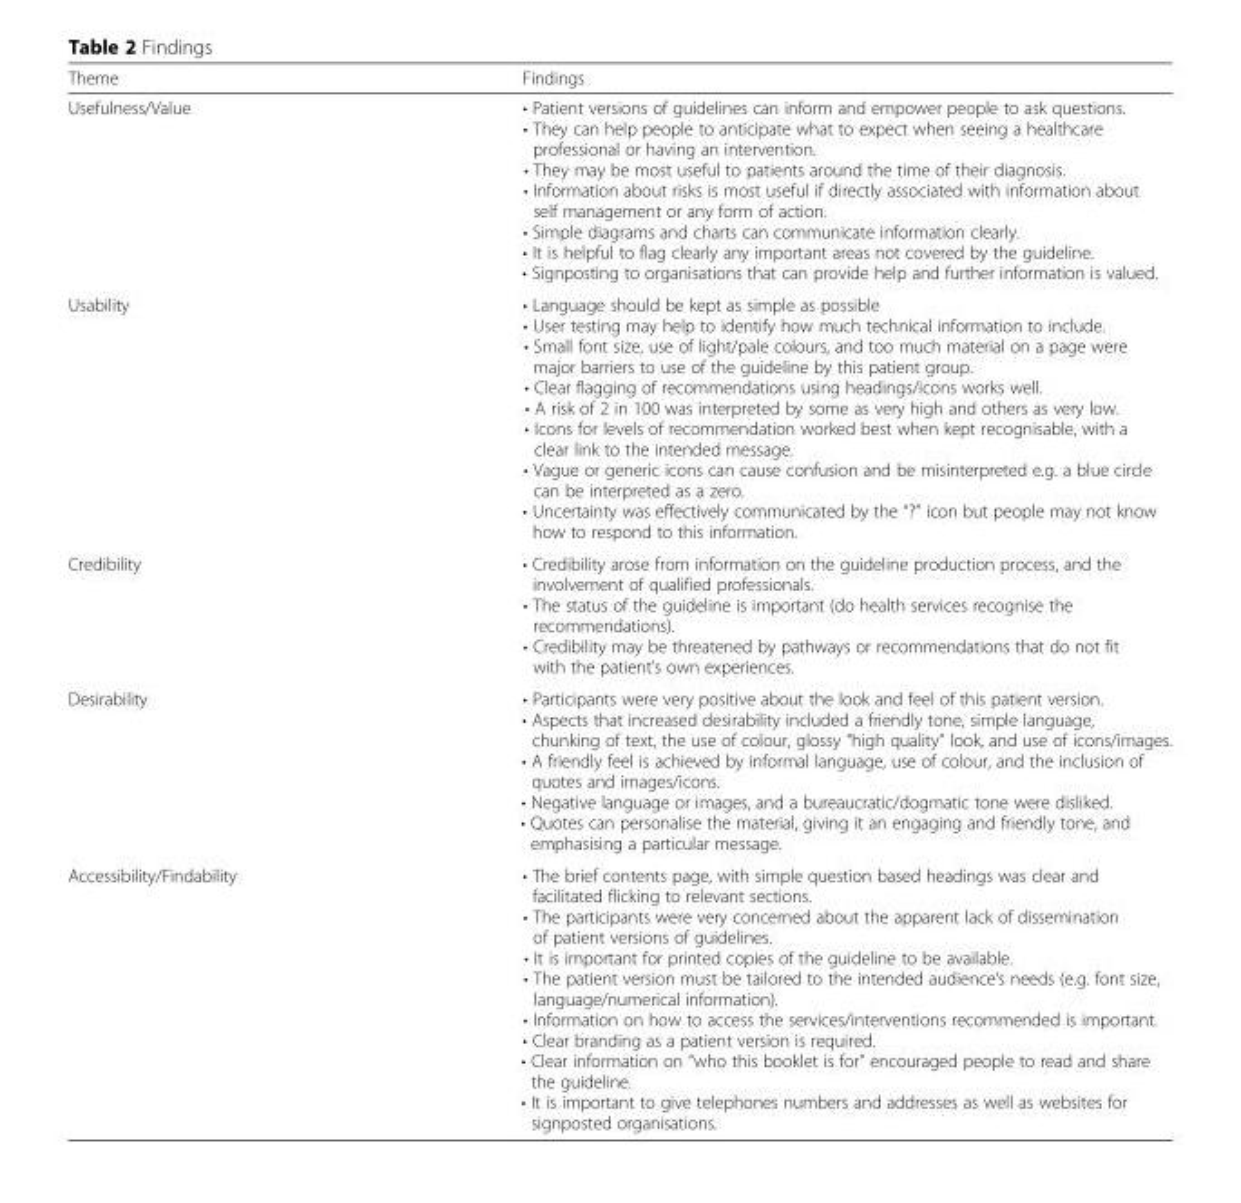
<table><thead><tr><td>Theme</td><td>Findings</td></tr></thead><tbody><tr><td>Usefulness/Value</td><td>• Patient versions of guidelines can inform and empower people to ask questions. • They can help people to anticipate what to expect when seeing a healthcare professional or having an intervention. • They may be most useful to patients around the time of their diagnosis. • Information about risks is most useful if directly associated with information about self management or any form of action. • Simple diagrams and charts can communicate information clearly. • It is helpful to flag clearly any important areas not covered by the guideline. • Signposting to organisations that can provide help and further information is valued.</td></tr><tr><td>Usability</td><td>• Language should be kept as simple as possible • User testing may help to identify how much technical information to include. • Small font size, use of light/pale colours, and too much material on a page were major barriers to use of the guideline by this patient group. • Clear flagging of recommendations using headings/icons works well. • A risk of 2 in 100 was interpreted by some as very high and others as very low. • Icons for levels of recommendation worked best when kept recognisable, with a clear link to the intended message. • Vague or generic icons can cause confusion and be misinterpreted e.g. a blue circle can be interpreted as a zero. • Uncertainty was effectively communicated by the “?” icon but people may not know how to respond to this information.</td></tr><tr><td>Credibility</td><td>• Credibility arose from information on the guideline production process, and the involvement of qualified professionals. • The status of the guideline is important (do health services recognise the recommendations). • Credibility may be threatened by pathways or recommendations that do not fit with the patient’s own experiences.</td></tr><tr><td>Desirability</td><td>• Participants were very positive about the look and feel of this patient version. • Aspects that increased desirability included a friendly tone, simple language, chunking of text, the use of colour, glossy “high quality” look, and use of icons/images. • A friendly feel is achieved by informal language, use of colour, and the inclusion of quotes and images/icons. • Negative language or images, and a bureaucratic/dogmatic tone were disliked. • Quotes can personalise the material, giving it an engaging and friendly tone, and emphasising a particular message.</td></tr><tr><td>Accessibility/Findability</td><td>• The brief contents page, with simple question based headings was clear and facilitated flicking to relevant sections. • The participants were very concerned about the apparent lack of dissemination of patient versions of guidelines. • It is important for printed copies of the guideline to be available. • The patient version must be tailored to the intended audience’s needs (e.g. font size, language/numerical information). • Information on how to access the services/interventions recommended is important. • Clear branding as a patient version is required. • Clear information on “who this booklet is for” encouraged people to read and share the guideline. • It is important to give telephones numbers and addresses as well as websites for signposted organisations.</td></tr></tbody></table>